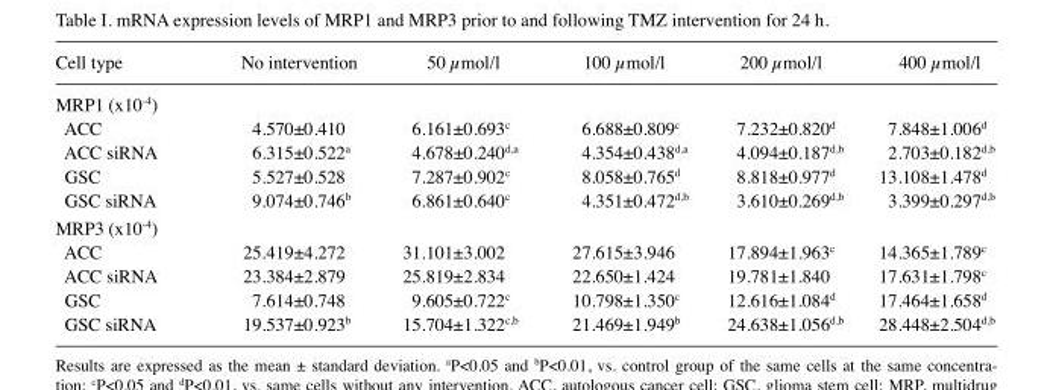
<table><thead><tr><td>Cell type</td><td>No intervention</td><td>50 µmol/l</td><td>100 µmol/l</td><td>200 µmol/l</td><td>400 µmol/l</td></tr></thead><tbody><tr><td colspan="6">MRP1 (x10<sup>-4</sup>)</td></tr><tr><td>ACC</td><td>4.570±0.410</td><td>6.161±0.693<sup>c</sup></td><td>6.688±0.809<sup>c</sup></td><td>7.232±0.820<sup>d</sup></td><td>7.848±1.006<sup>d</sup></td></tr><tr><td>ACC siRNA</td><td>6.315±0.522<sup>a</sup></td><td>4.678±0.240<sup>d,a</sup></td><td>4.354±0.438<sup>d,a</sup></td><td>4.094±0.187<sup>d,b</sup></td><td>2.703±0.182<sup>d,b</sup></td></tr><tr><td>GSC</td><td>5.527±0.528</td><td>7.287±0.902<sup>c</sup></td><td>8.058±0.765<sup>d</sup></td><td>8.818±0.977<sup>d</sup></td><td>13.108±1.478<sup>d</sup></td></tr><tr><td>GSC siRNA</td><td>9.074±0.746<sup>b</sup></td><td>6.861±0.640<sup>c</sup></td><td>4.351±0.472<sup>d,b</sup></td><td>3.610±0.269<sup>d,b</sup></td><td>3.399±0.297<sup>d,b</sup></td></tr><tr><td colspan="6">MRP3 (x10<sup>-4</sup>)</td></tr><tr><td>ACC</td><td>25.419±4.272</td><td>31.101±3.002</td><td>27.615±3.946</td><td>17.894±1.963<sup>c</sup></td><td>14.365±1.789<sup>c</sup></td></tr><tr><td>ACC siRNA</td><td>23.384±2.879</td><td>25.819±2.834</td><td>22.650±1.424</td><td>19.781±1.840</td><td>17.631±1.798<sup>c</sup></td></tr><tr><td>GSC</td><td>7.614±0.748</td><td>9.605±0.722<sup>c</sup></td><td>10.798±1.350<sup>c</sup></td><td>12.616±1.084<sup>d</sup></td><td>17.464±1.658<sup>d</sup></td></tr><tr><td>GSC siRNA</td><td>19.537±0.923<sup>b</sup></td><td>15.704±1.322<sup>c,b</sup></td><td>21.469±1.949<sup>b</sup></td><td>24.638±1.056<sup>d,b</sup></td><td>28.448±2.504<sup>d,b</sup></td></tr></tbody></table>